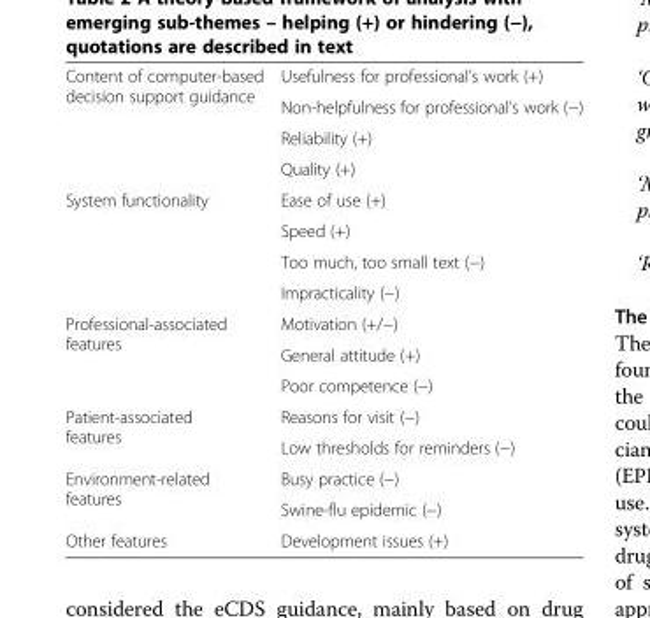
<table><tbody><tr><td rowspan="4">Content of computer-based decision support guidance</td><td>Usefulness for professional’s work (+)</td></tr><tr><td>Non-helpfulness for professional’s work (−)</td></tr><tr><td>Reliability (+)</td></tr><tr><td>Quality (+)</td></tr><tr><td rowspan="4">System functionality</td><td>Ease of use (+)</td></tr><tr><td>Speed (+)</td></tr><tr><td>Too much, too small text (−)</td></tr><tr><td>Impracticality (−)</td></tr><tr><td rowspan="3">Professional-associated features</td><td>Motivation (+/−)</td></tr><tr><td>General attitude (+)</td></tr><tr><td>Poor competence (−)</td></tr><tr><td rowspan="2">Patient-associated features</td><td>Reasons for visit (−)</td></tr><tr><td>Low thresholds for reminders (−)</td></tr><tr><td rowspan="2">Environment-related features</td><td>Busy practice (−)</td></tr><tr><td>Swine-flu epidemic (−)</td></tr><tr><td>Other features</td><td>Development issues (+)</td></tr></tbody></table>